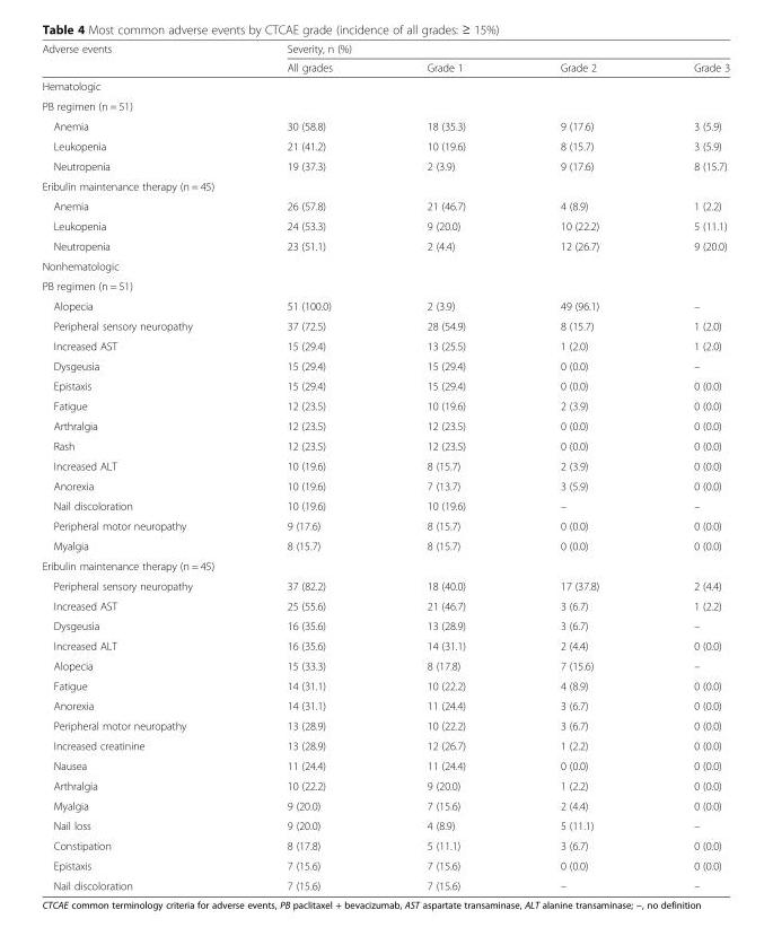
<table><thead><tr><td rowspan="2">Adverse events</td><td colspan="4">Severity, n (%)</td></tr><tr><td>All grades</td><td>Grade 1</td><td>Grade 2</td><td>Grade 3</td></tr></thead><tbody><tr><td colspan="5">Hematologic</td></tr><tr><td colspan="5">PB regimen (n = 51)</td></tr><tr><td>Anemia</td><td>30 (58.8)</td><td>18 (35.3)</td><td>9 (17.6)</td><td>3 (5.9)</td></tr><tr><td>Leukopenia</td><td>21 (41.2)</td><td>10 (19.6)</td><td>8 (15.7)</td><td>3 (5.9)</td></tr><tr><td>Neutropenia</td><td>19 (37.3)</td><td>2 (3.9)</td><td>9 (17.6)</td><td>8 (15.7)</td></tr><tr><td colspan="5">Eribulin maintenance therapy (n = 45)</td></tr><tr><td>Anemia</td><td>26 (57.8)</td><td>21 (46.7)</td><td>4 (8.9)</td><td>1 (2.2)</td></tr><tr><td>Leukopenia</td><td>24 (53.3)</td><td>9 (20.0)</td><td>10 (22.2)</td><td>5 (11.1)</td></tr><tr><td>Neutropenia</td><td>23 (51.1)</td><td>2 (4.4)</td><td>12 (26.7)</td><td>9 (20.0)</td></tr><tr><td colspan="5">Nonhematologic</td></tr><tr><td colspan="5">PB regimen (n = 51)</td></tr><tr><td>Alopecia</td><td>51 (100.0)</td><td>2 (3.9)</td><td>49 (96.1)</td><td>–</td></tr><tr><td>Peripheral sensory neuropathy</td><td>37 (72.5)</td><td>28 (54.9)</td><td>8 (15.7)</td><td>1 (2.0)</td></tr><tr><td>Increased AST</td><td>15 (29.4)</td><td>13 (25.5)</td><td>1 (2.0)</td><td>1 (2.0)</td></tr><tr><td>Dysgeusia</td><td>15 (29.4)</td><td>15 (29.4)</td><td>0 (0.0)</td><td>–</td></tr><tr><td>Epistaxis</td><td>15 (29.4)</td><td>15 (29.4)</td><td>0 (0.0)</td><td>0 (0.0)</td></tr><tr><td>Fatigue</td><td>12 (23.5)</td><td>10 (19.6)</td><td>2 (3.9)</td><td>0 (0.0)</td></tr><tr><td>Arthralgia</td><td>12 (23.5)</td><td>12 (23.5)</td><td>0 (0.0)</td><td>0 (0.0)</td></tr><tr><td>Rash</td><td>12 (23.5)</td><td>12 (23.5)</td><td>0 (0.0)</td><td>0 (0.0)</td></tr><tr><td>Increased ALT</td><td>10 (19.6)</td><td>8 (15.7)</td><td>2 (3.9)</td><td>0 (0.0)</td></tr><tr><td>Anorexia</td><td>10 (19.6)</td><td>7 (13.7)</td><td>3 (5.9)</td><td>0 (0.0)</td></tr><tr><td>Nail discoloration</td><td>10 (19.6)</td><td>10 (19.6)</td><td>–</td><td>–</td></tr><tr><td>Peripheral motor neuropathy</td><td>9 (17.6)</td><td>8 (15.7)</td><td>0 (0.0)</td><td>0 (0.0)</td></tr><tr><td>Myalgia</td><td>8 (15.7)</td><td>8 (15.7)</td><td>0 (0.0)</td><td>0 (0.0)</td></tr><tr><td colspan="5">Eribulin maintenance therapy (n = 45)</td></tr><tr><td>Peripheral sensory neuropathy</td><td>37 (82.2)</td><td>18 (40.0)</td><td>17 (37.8)</td><td>2 (4.4)</td></tr><tr><td>Increased AST</td><td>25 (55.6)</td><td>21 (46.7)</td><td>3 (6.7)</td><td>1 (2.2)</td></tr><tr><td>Dysgeusia</td><td>16 (35.6)</td><td>13 (28.9)</td><td>3 (6.7)</td><td>–</td></tr><tr><td>Increased ALT</td><td>16 (35.6)</td><td>14 (31.1)</td><td>2 (4.4)</td><td>0 (0.0)</td></tr><tr><td>Alopecia</td><td>15 (33.3)</td><td>8 (17.8)</td><td>7 (15.6)</td><td>–</td></tr><tr><td>Fatigue</td><td>14 (31.1)</td><td>10 (22.2)</td><td>4 (8.9)</td><td>0 (0.0)</td></tr><tr><td>Anorexia</td><td>14 (31.1)</td><td>11 (24.4)</td><td>3 (6.7)</td><td>0 (0.0)</td></tr><tr><td>Peripheral motor neuropathy</td><td>13 (28.9)</td><td>10 (22.2)</td><td>3 (6.7)</td><td>0 (0.0)</td></tr><tr><td>Increased creatinine</td><td>13 (28.9)</td><td>12 (26.7)</td><td>1 (2.2)</td><td>0 (0.0)</td></tr><tr><td>Nausea</td><td>11 (24.4)</td><td>11 (24.4)</td><td>0 (0.0)</td><td>0 (0.0)</td></tr><tr><td>Arthralgia</td><td>10 (22.2)</td><td>9 (20.0)</td><td>1 (2.2)</td><td>0 (0.0)</td></tr><tr><td>Myalgia</td><td>9 (20.0)</td><td>7 (15.6)</td><td>2 (4.4)</td><td>0 (0.0)</td></tr><tr><td>Nail loss</td><td>9 (20.0)</td><td>4 (8.9)</td><td>5 (11.1)</td><td>–</td></tr><tr><td>Constipation</td><td>8 (17.8)</td><td>5 (11.1)</td><td>3 (6.7)</td><td>0 (0.0)</td></tr><tr><td>Epistaxis</td><td>7 (15.6)</td><td>7 (15.6)</td><td>0 (0.0)</td><td>0 (0.0)</td></tr><tr><td>Nail discoloration</td><td>7 (15.6)</td><td>7 (15.6)</td><td>–</td><td>–</td></tr></tbody></table>